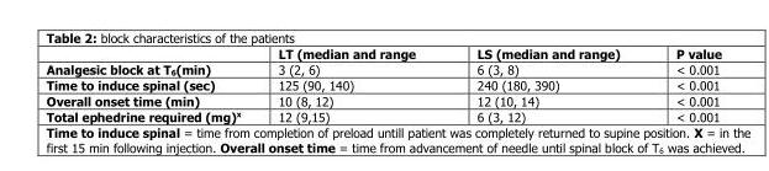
<table><thead><tr><td></td><td>LT (median and range</td><td>LS (median and range)</td><td>P value</td></tr></thead><tbody><tr><td>Analgesic block at T<sub>6</sub>(min)</td><td>3 (2, 6)</td><td>6 (3, 8)</td><td>&lt; 0.001</td></tr><tr><td>Time to induce spinal (sec)</td><td>125 (90, 140)</td><td>240 (180, 390)</td><td>&lt; 0.001</td></tr><tr><td>Overall onset time (min)</td><td>10 (8, 12)</td><td>12 (10, 14)</td><td>&lt; 0.001</td></tr><tr><td>Total ephedrine required (mg)<sup>x</sup></td><td>12 (9,15)</td><td>6 (3, 12)</td><td>&lt; 0.001</td></tr></tbody></table>